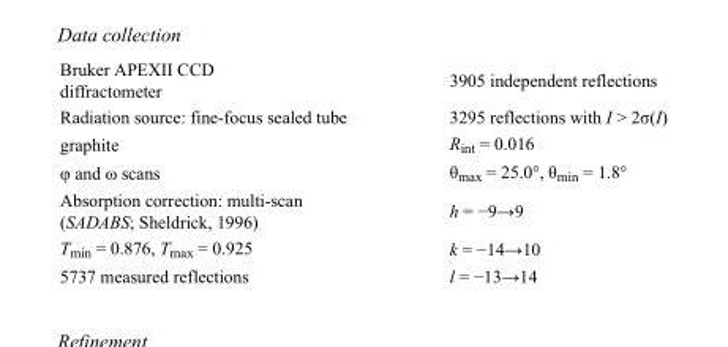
<table><tbody><tr><td>Bruker APEXII CCD diffractometer</td><td>3905 independent reflections</td></tr><tr><td>Radiation source: fine-focus sealed tube</td><td>3295 reflections with I &gt; 2σ(I)</td></tr><tr><td>graphite</td><td>R<sub>int</sub> = 0.016</td></tr><tr><td>φ and ω scans</td><td>θ<sub>max</sub> = 25.0°, θ<sub>min</sub> = 1.8°</td></tr><tr><td>Absorption correction: multi-scan (SADABS; Sheldrick, 1996)</td><td>h = −9→9</td></tr><tr><td>T<sub>min</sub> = 0.876, T<sub>max</sub> = 0.925</td><td>k = −14→10</td></tr><tr><td>5737 measured reflections</td><td>l = −13→14</td></tr></tbody></table>